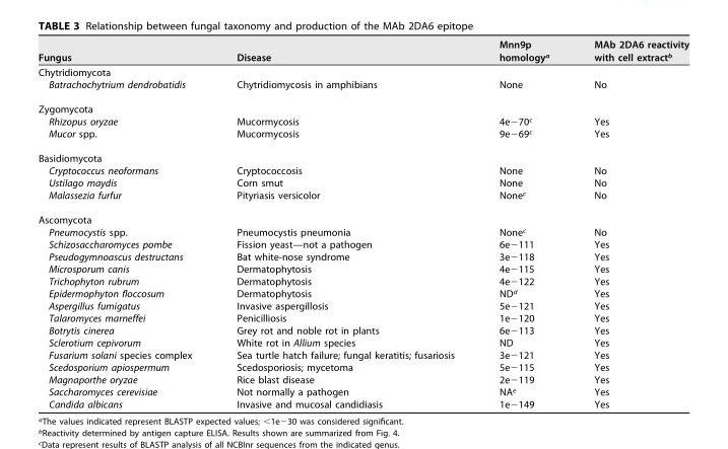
<table><thead><tr><td>Fungus</td><td>Disease</td><td>Mnn9p homology<sup>a</sup></td><td>MAb 2DA6 reactivity with cell extract<sup>b</sup></td></tr></thead><tbody><tr><td colspan="4">Chytridiomycota</td></tr><tr><td>Batrachochytrium dendrobatidis</td><td>Chytridiomycosis in amphibians</td><td>None</td><td>No</td></tr><tr><td colspan="4">Zygomycota</td></tr><tr><td>Rhizopus oryzae</td><td>Mucormycosis</td><td>4e−70<sup>c</sup></td><td>Yes</td></tr><tr><td>Mucor spp.</td><td>Mucormycosis</td><td>9e−69<sup>c</sup></td><td>Yes</td></tr><tr><td colspan="4">Basidiomycota</td></tr><tr><td>Cryptococcus neoformans</td><td>Cryptococcosis</td><td>None</td><td>No</td></tr><tr><td>Ustilago maydis</td><td>Corn smut</td><td>None</td><td>No</td></tr><tr><td>Malassezia furfur</td><td>Pityriasis versicolor</td><td>None<sup>c</sup></td><td>No</td></tr><tr><td colspan="4">Ascomycota</td></tr><tr><td>Pneumocystis spp.</td><td>Pneumocystis pneumonia</td><td>None<sup>c</sup></td><td>No</td></tr><tr><td>Schizosaccharomyces pombe</td><td>Fission yeast—not a pathogen</td><td>6e−111</td><td>Yes</td></tr><tr><td>Pseudogymnoascus destructans</td><td>Bat white-nose syndrome</td><td>3e−118</td><td>Yes</td></tr><tr><td>Microsporum canis</td><td>Dermatophytosis</td><td>4e−115</td><td>Yes</td></tr><tr><td>Trichophyton rubrum</td><td>Dermatophytosis</td><td>4e−122</td><td>Yes</td></tr><tr><td>Epidermophyton floccosum</td><td>Dermatophytosis</td><td>ND<sup>d</sup></td><td>Yes</td></tr><tr><td>Aspergillus fumigatus</td><td>Invasive aspergillosis</td><td>5e−121</td><td>Yes</td></tr><tr><td>Talaromyces marneffei</td><td>Penicilliosis</td><td>1e−120</td><td>Yes</td></tr><tr><td>Botrytis cinerea</td><td>Grey rot and noble rot in plants</td><td>6e−113</td><td>Yes</td></tr><tr><td>Sclerotium cepivorum</td><td>White rot in Allium species</td><td>ND</td><td>Yes</td></tr><tr><td>Fusarium solani species complex</td><td>Sea turtle hatch failure; fungal keratitis; fusariosis</td><td>3e−121</td><td>Yes</td></tr><tr><td>Scedosporium apiospermum</td><td>Scedosporiosis; mycetoma</td><td>5e−115</td><td>Yes</td></tr><tr><td>Magnaporthe oryzae</td><td>Rice blast disease</td><td>2e−119</td><td>Yes</td></tr><tr><td>Saccharomyces cerevisiae</td><td>Not normally a pathogen</td><td>NA<sup>e</sup></td><td>Yes</td></tr><tr><td>Candida albicans</td><td>Invasive and mucosal candidiasis</td><td>1e−149</td><td>Yes</td></tr></tbody></table>